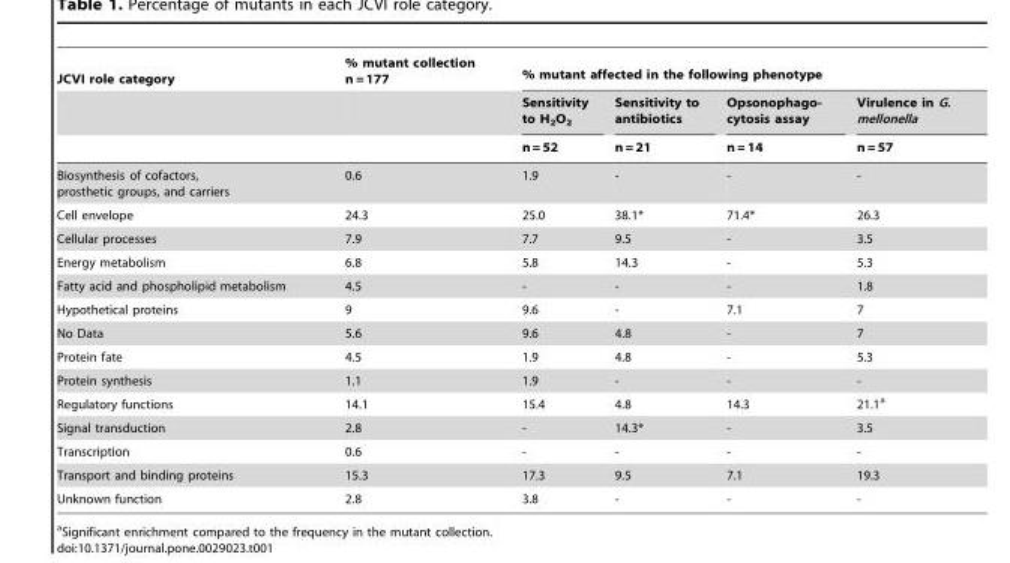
<table><thead><tr><td rowspan="3">JCVI role category</td><td rowspan="3">% mutant collection n = 177</td><td colspan="4">% mutant affected in the following phenotype</td></tr><tr><td rowspan="2">Sensitivity to H<sub>2</sub>O<sub>2</sub> n = 52</td><td rowspan="2">Sensitivity to antibiotics n = 21</td><td rowspan="2">Opsonophago- cytosis assay n = 14</td><td rowspan="2">Virulence in G. mellonella n = 57</td></tr><tr></tr></thead><tbody><tr><td>Biosynthesis of cofactors, prosthetic groups, and carriers</td><td>0.6</td><td>1.9</td><td>-</td><td>-</td><td>-</td></tr><tr><td>Cell envelope</td><td>24.3</td><td>25.0</td><td>38.1*</td><td>71.4*</td><td>26.3</td></tr><tr><td>Cellular processes</td><td>7.9</td><td>7.7</td><td>9.5</td><td>-</td><td>3.5</td></tr><tr><td>Energy metabolism</td><td>6.8</td><td>5.8</td><td>14.3</td><td>-</td><td>5.3</td></tr><tr><td>Fatty acid and phospholipid metabolism</td><td>4.5</td><td>-</td><td>-</td><td>-</td><td>1.8</td></tr><tr><td>Hypothetical proteins</td><td>9</td><td>9.6</td><td>-</td><td>7.1</td><td>7</td></tr><tr><td>No Data</td><td>5.6</td><td>9.6</td><td>4.8</td><td>-</td><td>7</td></tr><tr><td>Protein fate</td><td>4.5</td><td>1.9</td><td>4.8</td><td>-</td><td>5.3</td></tr><tr><td>Protein synthesis</td><td>1.1</td><td>1.9</td><td>-</td><td>-</td><td>-</td></tr><tr><td>Regulatory functions</td><td>14.1</td><td>15.4</td><td>4.8</td><td>14.3</td><td>21.1<sup>a</sup></td></tr><tr><td>Signal transduction</td><td>2.8</td><td>-</td><td>14.3*</td><td>-</td><td>3.5</td></tr><tr><td>Transcription</td><td>0.6</td><td>-</td><td>-</td><td>-</td><td>-</td></tr><tr><td>Transport and binding proteins</td><td>15.3</td><td>17.3</td><td>9.5</td><td>7.1</td><td>19.3</td></tr><tr><td>Unknown function</td><td>2.8</td><td>3.8</td><td>-</td><td>-</td><td>-</td></tr></tbody></table>